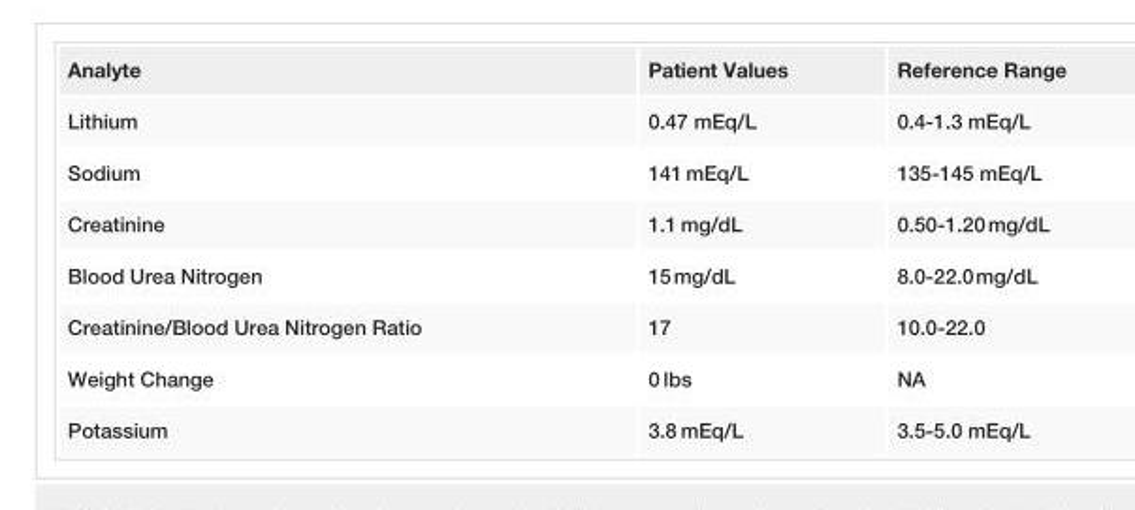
<table><tbody><tr><td>Analyte</td><td>Patient Values</td><td>Reference Range</td></tr><tr><td>Lithium</td><td>0.47 mEq/L</td><td>0.4-1.3 mEq/L</td></tr><tr><td>Sodium</td><td>141 mEq/L</td><td>135-145 mEq/L</td></tr><tr><td>Creatinine</td><td>1.1 mg/dL</td><td>0.50-1.20 mg/dL</td></tr><tr><td>Blood Urea Nitrogen</td><td>15 mg/dL</td><td>8.0-22.0 mg/dL</td></tr><tr><td>Creatinine/Blood Urea Nitrogen Ratio</td><td>17</td><td>10.0-22.0</td></tr><tr><td>Weight Change</td><td>0 lbs</td><td>NA</td></tr><tr><td>Potassium</td><td>3.8 mEq/L</td><td>3.5-5.0 mEq/L</td></tr></tbody></table>